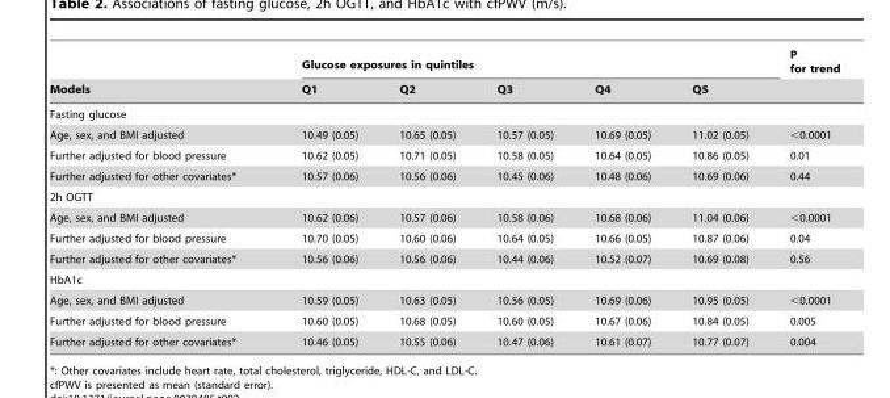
<table><thead><tr><td rowspan="2">Models</td><td colspan="5">Glucose exposures in quintiles</td><td rowspan="2">P for trend</td></tr><tr><td>Q1</td><td>Q2</td><td>Q3</td><td>Q4</td><td>Q5</td></tr></thead><tbody><tr><td colspan="7">Fasting glucose</td></tr><tr><td>Age, sex, and BMI adjusted</td><td>10.49 (0.05)</td><td>10.65 (0.05)</td><td>10.57 (0.05)</td><td>10.69 (0.05)</td><td>11.02 (0.05)</td><td>&lt;0.0001</td></tr><tr><td>Further adjusted for blood pressure</td><td>10.62 (0.05)</td><td>10.71 (0.05)</td><td>10.58 (0.05)</td><td>10.64 (0.05)</td><td>10.86 (0.05)</td><td>0.01</td></tr><tr><td>Further adjusted for other covariates*</td><td>10.57 (0.06)</td><td>10.56 (0.06)</td><td>10.45 (0.06)</td><td>10.48 (0.06)</td><td>10.69 (0.06)</td><td>0.44</td></tr><tr><td colspan="7">2h OGTT</td></tr><tr><td>Age, sex, and BMI adjusted</td><td>10.62 (0.06)</td><td>10.57 (0.06)</td><td>10.58 (0.06)</td><td>10.68 (0.06)</td><td>11.04 (0.06)</td><td>&lt;0.0001</td></tr><tr><td>Further adjusted for blood pressure</td><td>10.70 (0.05)</td><td>10.60 (0.06)</td><td>10.64 (0.05)</td><td>10.66 (0.05)</td><td>10.87 (0.06)</td><td>0.04</td></tr><tr><td>Further adjusted for other covariates*</td><td>10.56 (0.06)</td><td>10.56 (0.06)</td><td>10.44 (0.06)</td><td>10.52 (0.07)</td><td>10.69 (0.08)</td><td>0.56</td></tr><tr><td colspan="7">HbA1c</td></tr><tr><td>Age, sex, and BMI adjusted</td><td>10.59 (0.05)</td><td>10.63 (0.05)</td><td>10.56 (0.05)</td><td>10.69 (0.06)</td><td>10.95 (0.05)</td><td>&lt;0.0001</td></tr><tr><td>Further adjusted for blood pressure</td><td>10.60 (0.05)</td><td>10.68 (0.05)</td><td>10.60 (0.05)</td><td>10.67 (0.06)</td><td>10.84 (0.05)</td><td>0.005</td></tr><tr><td>Further adjusted for other covariates*</td><td>10.46 (0.05)</td><td>10.55 (0.06)</td><td>10.47 (0.06)</td><td>10.61 (0.07)</td><td>10.77 (0.07)</td><td>0.004</td></tr></tbody></table>